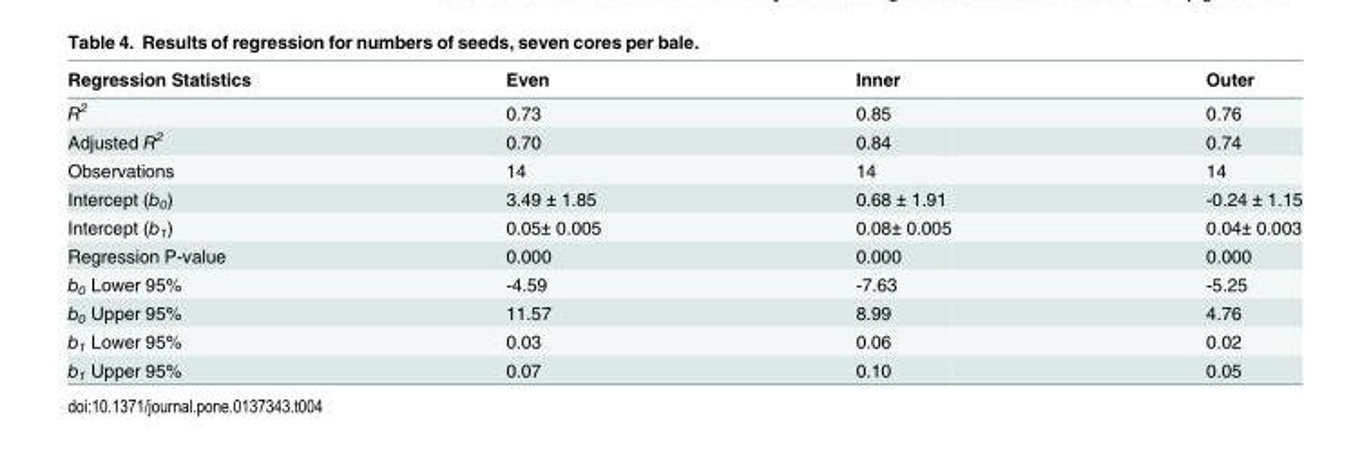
<table><thead><tr><td>Regression Statistics</td><td>Even</td><td>Inner</td><td>Outer</td></tr></thead><tbody><tr><td>R<sup>2</sup></td><td>0.73</td><td>0.85</td><td>0.76</td></tr><tr><td>Adjusted R<sup>2</sup></td><td>0.70</td><td>0.84</td><td>0.74</td></tr><tr><td>Observations</td><td>14</td><td>14</td><td>14</td></tr><tr><td>Intercept (b<sub>0</sub>)</td><td>3.49 ± 1.85</td><td>0.68 ± 1.91</td><td>-0.24 ± 1.15</td></tr><tr><td>Intercept (b<sub>1</sub>)</td><td>0.05± 0.005</td><td>0.08± 0.005</td><td>0.04± 0.003</td></tr><tr><td>Regression P-value</td><td>0.000</td><td>0.000</td><td>0.000</td></tr><tr><td>b<sub>0</sub> Lower 95%</td><td>-4.59</td><td>-7.63</td><td>-5.25</td></tr><tr><td>b<sub>0</sub> Upper 95%</td><td>11.57</td><td>8.99</td><td>4.76</td></tr><tr><td>b<sub>1</sub> Lower 95%</td><td>0.03</td><td>0.06</td><td>0.02</td></tr><tr><td>b<sub>1</sub> Upper 95%</td><td>0.07</td><td>0.10</td><td>0.05</td></tr></tbody></table>